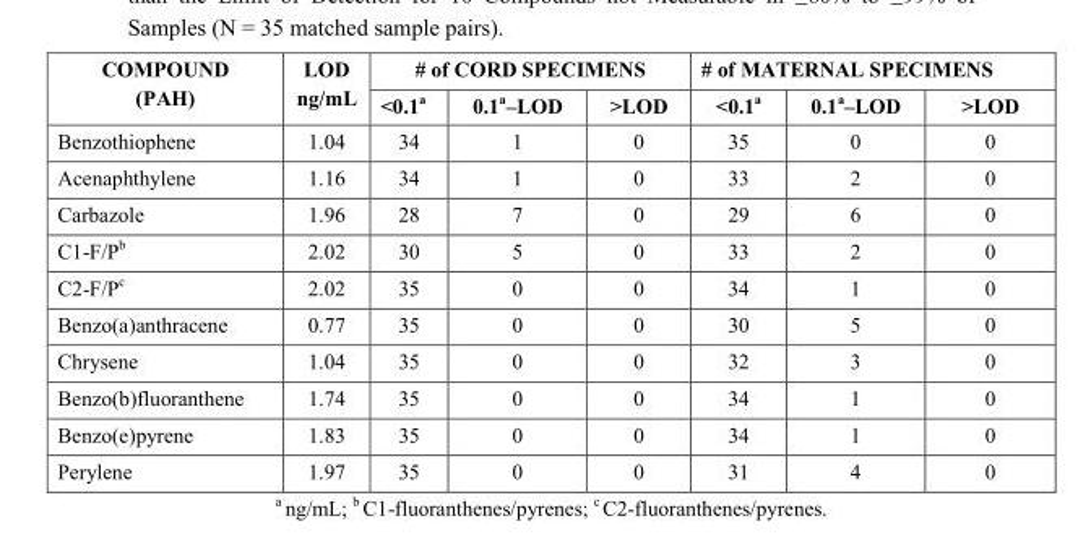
<table><thead><tr><td rowspan="2">COMPOUND (PAH)</td><td rowspan="2">LOD ng/mL</td><td colspan="3"># of CORD SPECIMENS</td><td colspan="3"># of MATERNAL SPECIMENS</td></tr><tr><td>&lt;0.1<sup>a</sup></td><td>0.1<sup>a</sup>–LOD</td><td>&gt;LOD</td><td>&lt;0.1<sup>a</sup></td><td>0.1<sup>a</sup>–LOD</td><td>&gt;LOD</td></tr></thead><tbody><tr><td>Benzothiophene</td><td>1.04</td><td>34</td><td>1</td><td>0</td><td>35</td><td>0</td><td>0</td></tr><tr><td>Acenaphthylene</td><td>1.16</td><td>34</td><td>1</td><td>0</td><td>33</td><td>2</td><td>0</td></tr><tr><td>Carbazole</td><td>1.96</td><td>28</td><td>7</td><td>0</td><td>29</td><td>6</td><td>0</td></tr><tr><td>C1-F/P<sup>b</sup></td><td>2.02</td><td>30</td><td>5</td><td>0</td><td>33</td><td>2</td><td>0</td></tr><tr><td>C2-F/P<sup>c</sup></td><td>2.02</td><td>35</td><td>0</td><td>0</td><td>34</td><td>1</td><td>0</td></tr><tr><td>Benzo(a)anthracene</td><td>0.77</td><td>35</td><td>0</td><td>0</td><td>30</td><td>5</td><td>0</td></tr><tr><td>Chrysene</td><td>1.04</td><td>35</td><td>0</td><td>0</td><td>32</td><td>3</td><td>0</td></tr><tr><td>Benzo(b)fluoranthene</td><td>1.74</td><td>35</td><td>0</td><td>0</td><td>34</td><td>1</td><td>0</td></tr><tr><td>Benzo(e)pyrene</td><td>1.83</td><td>35</td><td>0</td><td>0</td><td>34</td><td>1</td><td>0</td></tr><tr><td>Perylene</td><td>1.97</td><td>35</td><td>0</td><td>0</td><td>31</td><td>4</td><td>0</td></tr></tbody></table>